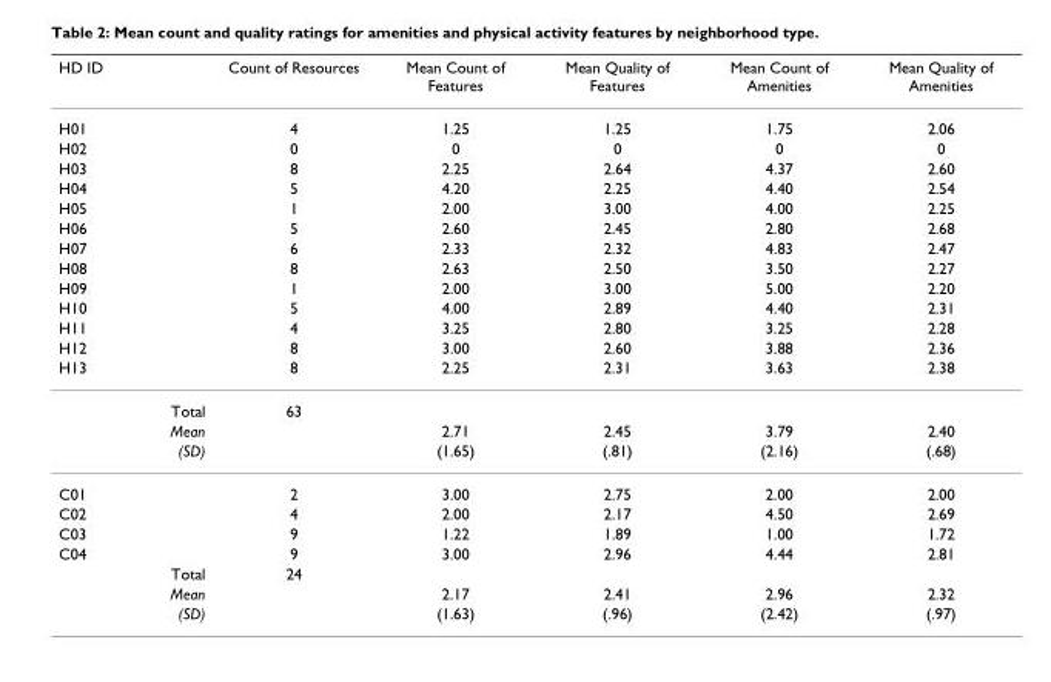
<table><thead><tr><td>HD ID</td><td>Count of Resources</td><td>Mean Count of Features</td><td>Mean Quality of Features</td><td>Mean Count of Amenities</td><td>Mean Quality of Amenities</td></tr></thead><tbody><tr><td>H01</td><td>4</td><td>1.25</td><td>1.25</td><td>1.75</td><td>2.06</td></tr><tr><td>H02</td><td>0</td><td>0</td><td>0</td><td>0</td><td>0</td></tr><tr><td>H03</td><td>8</td><td>2.25</td><td>2.64</td><td>4.37</td><td>2.60</td></tr><tr><td>H04</td><td>5</td><td>4.20</td><td>2.25</td><td>4.40</td><td>2.54</td></tr><tr><td>H05</td><td>1</td><td>2.00</td><td>3.00</td><td>4.00</td><td>2.25</td></tr><tr><td>H06</td><td>5</td><td>2.60</td><td>2.45</td><td>2.80</td><td>2.68</td></tr><tr><td>H07</td><td>6</td><td>2.33</td><td>2.32</td><td>4.83</td><td>2.47</td></tr><tr><td>H08</td><td>8</td><td>2.63</td><td>2.50</td><td>3.50</td><td>2.27</td></tr><tr><td>H09</td><td>1</td><td>2.00</td><td>3.00</td><td>5.00</td><td>2.20</td></tr><tr><td>H10</td><td>5</td><td>4.00</td><td>2.89</td><td>4.40</td><td>2.31</td></tr><tr><td>H11</td><td>4</td><td>3.25</td><td>2.80</td><td>3.25</td><td>2.28</td></tr><tr><td>H12</td><td>8</td><td>3.00</td><td>2.60</td><td>3.88</td><td>2.36</td></tr><tr><td>H13</td><td>8</td><td>2.25</td><td>2.31</td><td>3.63</td><td>2.38</td></tr><tr><td>Total</td><td>63</td><td></td><td></td><td></td><td></td></tr><tr><td>Mean</td><td></td><td>2.71</td><td>2.45</td><td>3.79</td><td>2.40</td></tr><tr><td>(SD)</td><td></td><td>(1.65)</td><td>(.81)</td><td>(2.16)</td><td>(.68)</td></tr><tr><td>C01</td><td>2</td><td>3.00</td><td>2.75</td><td>2.00</td><td>2.00</td></tr><tr><td>C02</td><td>4</td><td>2.00</td><td>2.17</td><td>4.50</td><td>2.69</td></tr><tr><td>C03</td><td>9</td><td>1.22</td><td>1.89</td><td>1.00</td><td>1.72</td></tr><tr><td>C04</td><td>9</td><td>3.00</td><td>2.96</td><td>4.44</td><td>2.81</td></tr><tr><td>Total</td><td>24</td><td></td><td></td><td></td><td></td></tr><tr><td>Mean</td><td></td><td>2.17</td><td>2.41</td><td>2.96</td><td>2.32</td></tr><tr><td>(SD)</td><td></td><td>(1.63)</td><td>(.96)</td><td>(2.42)</td><td>(.97)</td></tr></tbody></table>